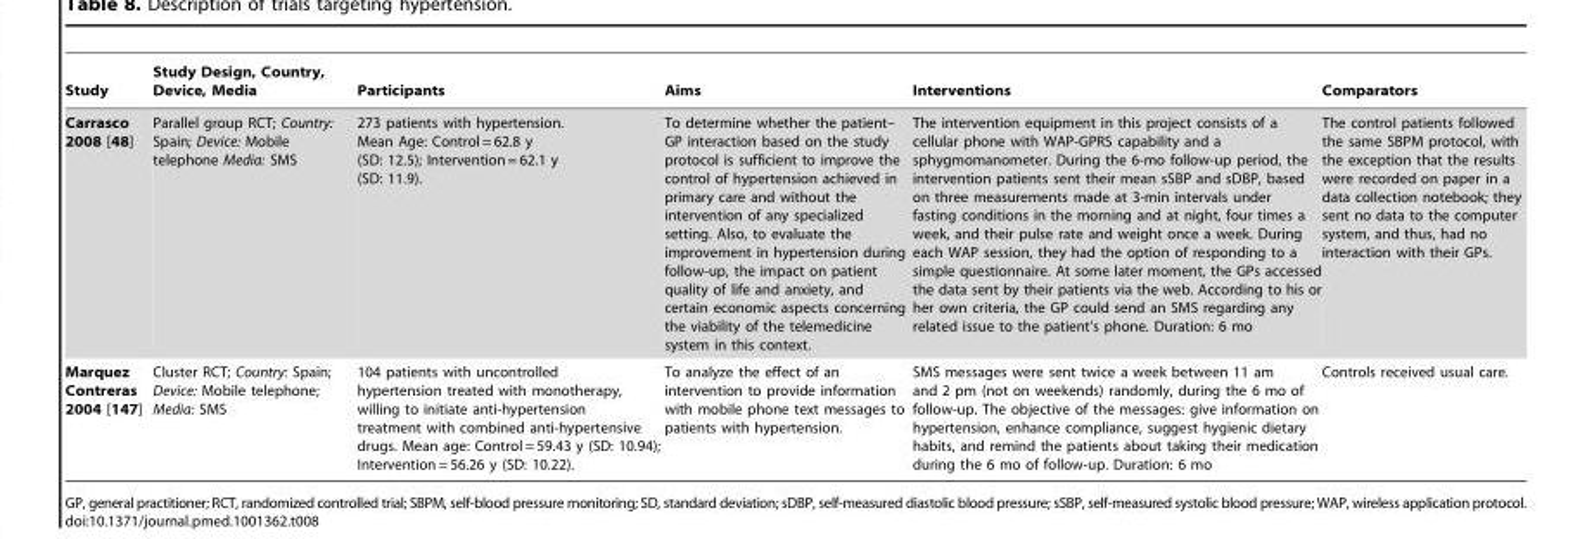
<table><thead><tr><td>Study</td><td>Study Design, Country, Device, Media</td><td>Participants</td><td>Aims</td><td>Interventions</td><td>Comparators</td></tr></thead><tbody><tr><td>Carrasco 2008 [48]</td><td>Parallel group RCT; Country: Spain; Device: Mobile telephone Media: SMS</td><td>273 patients with hypertension. Mean Age: Control = 62.8 y (SD: 12.5); Intervention = 62.1 y (SD: 11.9).</td><td>To determine whether the patient– GP interaction based on the study protocol is sufficient to improve the control of hypertension achieved in primary care and without the intervention of any specialized setting. Also, to evaluate the improvement in hypertension during follow-up, the impact on patient quality of life and anxiety, and certain economic aspects concerning the viability of the telemedicine system in this context.</td><td>The intervention equipment in this project consists of a cellular phone with WAP-GPRS capability and a sphygmomanometer. During the 6-mo follow-up period, the intervention patients sent their mean sSBP and sDBP, based on three measurements made at 3-min intervals under fasting conditions in the morning and at night, four times a week, and their pulse rate and weight once a week. During each WAP session, they had the option of responding to a simple questionnaire. At some later moment, the GPs accessed the data sent by their patients via the web. According to his or her own criteria, the GP could send an SMS regarding any related issue to the patient’s phone. Duration: 6 mo</td><td>The control patients followed the same SBPM protocol, with the exception that the results were recorded on paper in a data collection notebook; they sent no data to the computer system, and thus, had no interaction with their GPs.</td></tr><tr><td>Marquez Contreras 2004 [147]</td><td>Cluster RCT; Country: Spain; Device: Mobile telephone; Media: SMS</td><td>104 patients with uncontrolled hypertension treated with monotherapy, willing to initiate anti-hypertension treatment with combined anti-hypertensive drugs. Mean age: Control = 59.43 y (SD: 10.94); Intervention = 56.26 y (SD: 10.22).</td><td>To analyze the effect of an intervention to provide information with mobile phone text messages to patients with hypertension.</td><td>SMS messages were sent twice a week between 11 am and 2 pm (not on weekends) randomly, during the 6 mo of follow-up. The objective of the messages: give information on hypertension, enhance compliance, suggest hygienic dietary habits, and remind the patients about taking their medication during the 6 mo of follow-up. Duration: 6 mo</td><td>Controls received usual care.</td></tr></tbody></table>